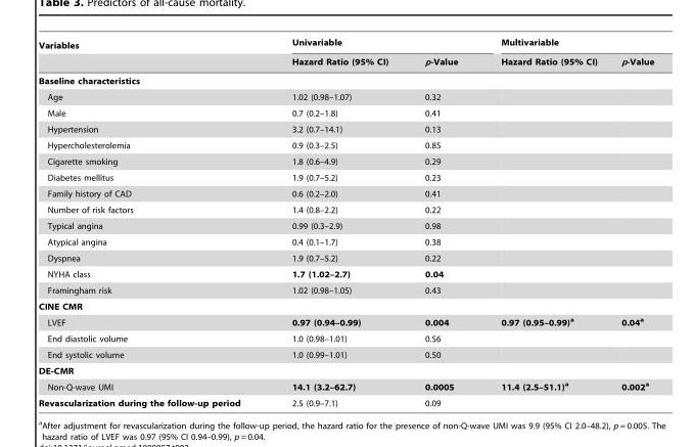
<table><thead><tr><td rowspan="2">Variables</td><td colspan="2">Univariable</td><td colspan="2">Multivariable</td></tr><tr><td>Hazard Ratio (95% CI)</td><td>p-Value</td><td>Hazard Ratio (95% CI)</td><td>p-Value</td></tr></thead><tbody><tr><td colspan="5">Baseline characteristics</td></tr><tr><td>Age</td><td>1.02 (0.98–1.07)</td><td>0.32</td><td></td><td></td></tr><tr><td>Male</td><td>0.7 (0.2–1.8)</td><td>0.41</td><td></td><td></td></tr><tr><td>Hypertension</td><td>3.2 (0.7–14.1)</td><td>0.13</td><td></td><td></td></tr><tr><td>Hypercholesterolemia</td><td>0.9 (0.3–2.5)</td><td>0.85</td><td></td><td></td></tr><tr><td>Cigarette smoking</td><td>1.8 (0.6–4.9)</td><td>0.29</td><td></td><td></td></tr><tr><td>Diabetes mellitus</td><td>1.9 (0.7–5.2)</td><td>0.23</td><td></td><td></td></tr><tr><td>Family history of CAD</td><td>0.6 (0.2–2.0)</td><td>0.41</td><td></td><td></td></tr><tr><td>Number of risk factors</td><td>1.4 (0.8–2.2)</td><td>0.22</td><td></td><td></td></tr><tr><td>Typical angina</td><td>0.99 (0.3–2.9)</td><td>0.98</td><td></td><td></td></tr><tr><td>Atypical angina</td><td>0.4 (0.1–1.7)</td><td>0.38</td><td></td><td></td></tr><tr><td>Dyspnea</td><td>1.9 (0.7–5.2)</td><td>0.22</td><td></td><td></td></tr><tr><td>NYHA class</td><td>1.7 (1.02–2.7)</td><td>0.04</td><td></td><td></td></tr><tr><td>Framingham risk</td><td>1.02 (0.98–1.05)</td><td>0.43</td><td></td><td></td></tr><tr><td colspan="5">CINE CMR</td></tr><tr><td>LVEF</td><td>0.97 (0.94–0.99)</td><td>0.004</td><td>0.97 (0.95–0.99)a</td><td>0.04a</td></tr><tr><td>End diastolic volume</td><td>1.0 (0.98–1.01)</td><td>0.56</td><td></td><td></td></tr><tr><td>End systolic volume</td><td>1.0 (0.99–1.01)</td><td>0.50</td><td></td><td></td></tr><tr><td colspan="5">DE-CMR</td></tr><tr><td>Non-Q-wave UMI</td><td>14.1 (3.2–62.7)</td><td>0.0005</td><td>11.4 (2.5–51.1)a</td><td>0.002a</td></tr><tr><td>Revascularization during the follow-up period</td><td>2.5 (0.9–7.1)</td><td>0.09</td><td></td><td></td></tr></tbody></table>